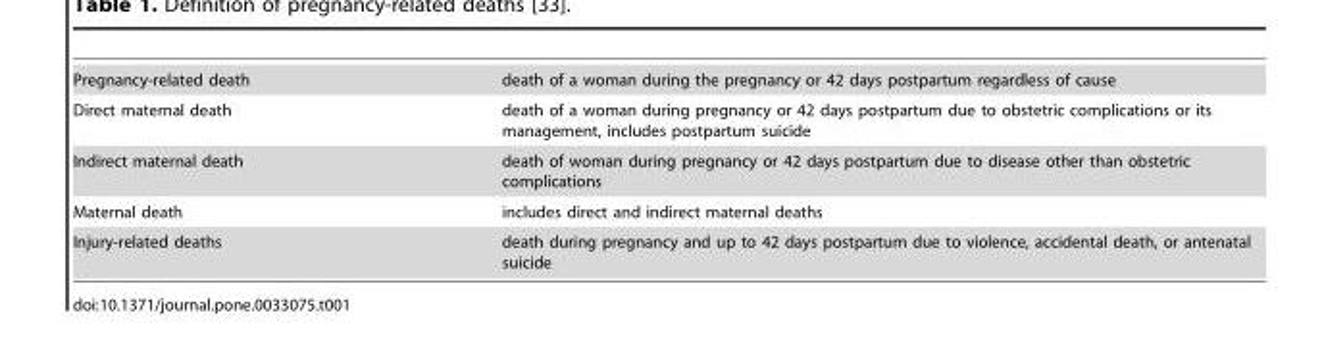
<table><tbody><tr><td>Pregnancy-related death</td><td>death of a woman during the pregnancy or 42 days postpartum regardless of cause</td></tr><tr><td>Direct maternal death</td><td>death of a woman during pregnancy or 42 days postpartum due to obstetric complications or its management, includes postpartum suicide</td></tr><tr><td>Indirect maternal death</td><td>death of woman during pregnancy or 42 days postpartum due to disease other than obstetric complications</td></tr><tr><td>Maternal death</td><td>includes direct and indirect maternal deaths</td></tr><tr><td>Injury-related deaths</td><td>death during pregnancy and up to 42 days postpartum due to violence, accidental death, or antenatal suicide</td></tr></tbody></table>